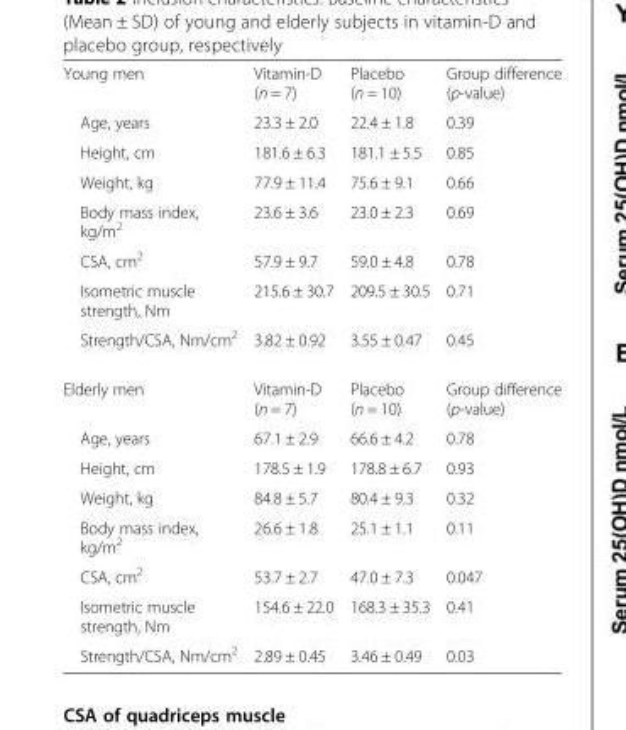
<table><tbody><tr><td>Young men</td><td>Vitamin-D (n = 7)</td><td>Placebo (n = 10)</td><td>Group difference (p-value)</td></tr><tr><td>Age, years</td><td>23.3 ± 2.0</td><td>22.4 ± 1.8</td><td>0.39</td></tr><tr><td>Height, cm</td><td>181.6 ± 6.3</td><td>181.1 ± 5.5</td><td>0.85</td></tr><tr><td>Weight, kg</td><td>77.9 ± 11.4</td><td>75.6 ± 9.1</td><td>0.66</td></tr><tr><td>Body mass index, kg/m<sup>2</sup></td><td>23.6 ± 3.6</td><td>23.0 ± 2.3</td><td>0.69</td></tr><tr><td>CSA, cm<sup>2</sup></td><td>57.9 ± 9.7</td><td>59.0 ± 4.8</td><td>0.78</td></tr><tr><td>Isometric muscle strength, Nm</td><td>215.6 ± 30.7</td><td>209.5 ± 30.5</td><td>0.71</td></tr><tr><td>Strength/CSA, Nm/cm<sup>2</sup></td><td>3.82 ± 0.92</td><td>3.55 ± 0.47</td><td>0.45</td></tr><tr><td>Elderly men</td><td>Vitamin-D (n = 7)</td><td>Placebo (n = 10)</td><td>Group difference (p-value)</td></tr><tr><td>Age, years</td><td>67.1 ± 2.9</td><td>66.6 ± 4.2</td><td>0.78</td></tr><tr><td>Height, cm</td><td>178.5 ± 1.9</td><td>178.8 ± 6.7</td><td>0.93</td></tr><tr><td>Weight, kg</td><td>84.8 ± 5.7</td><td>80.4 ± 9.3</td><td>0.32</td></tr><tr><td>Body mass index, kg/m<sup>2</sup></td><td>26.6 ± 1.8</td><td>25.1 ± 1.1</td><td>0.11</td></tr><tr><td>CSA, cm<sup>2</sup></td><td>53.7 ± 2.7</td><td>47.0 ± 7.3</td><td>0.047</td></tr><tr><td>Isometric muscle strength, Nm</td><td>154.6 ± 22.0</td><td>168.3 ± 35.3</td><td>0.41</td></tr><tr><td>Strength/CSA, Nm/cm<sup>2</sup></td><td>2.89 ± 0.45</td><td>3.46 ± 0.49</td><td>0.03</td></tr></tbody></table>